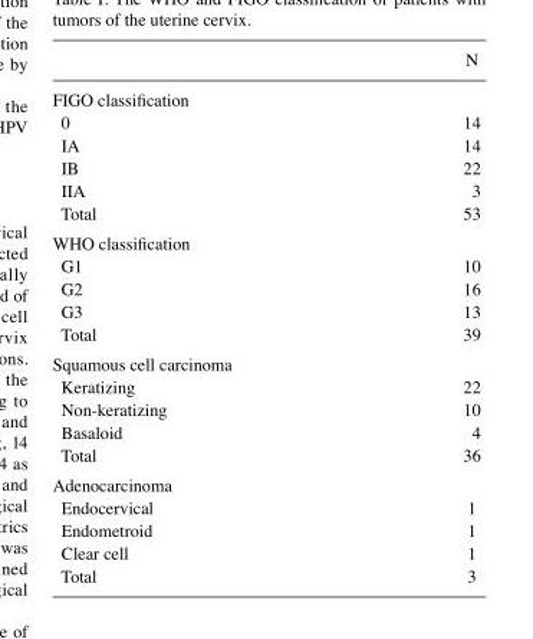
<table><thead><tr><td></td><td>N</td></tr></thead><tbody><tr><td colspan="2">FIGO classification</td></tr><tr><td>0</td><td>14</td></tr><tr><td>IA</td><td>14</td></tr><tr><td>IB</td><td>22</td></tr><tr><td>IIA</td><td>3</td></tr><tr><td>Total</td><td>53</td></tr><tr><td colspan="2">WHO classification</td></tr><tr><td>G1</td><td>10</td></tr><tr><td>G2</td><td>16</td></tr><tr><td>G3</td><td>13</td></tr><tr><td>Total</td><td>39</td></tr><tr><td colspan="2">Squamous cell carcinoma</td></tr><tr><td>Keratizing</td><td>22</td></tr><tr><td>Non-keratizing</td><td>10</td></tr><tr><td>Basaloid</td><td>4</td></tr><tr><td>Total</td><td>36</td></tr><tr><td colspan="2">Adenocarcinoma</td></tr><tr><td>Endocervical</td><td>1</td></tr><tr><td>Endometroid</td><td>1</td></tr><tr><td>Clear cell</td><td>1</td></tr><tr><td>Total</td><td>3</td></tr></tbody></table>